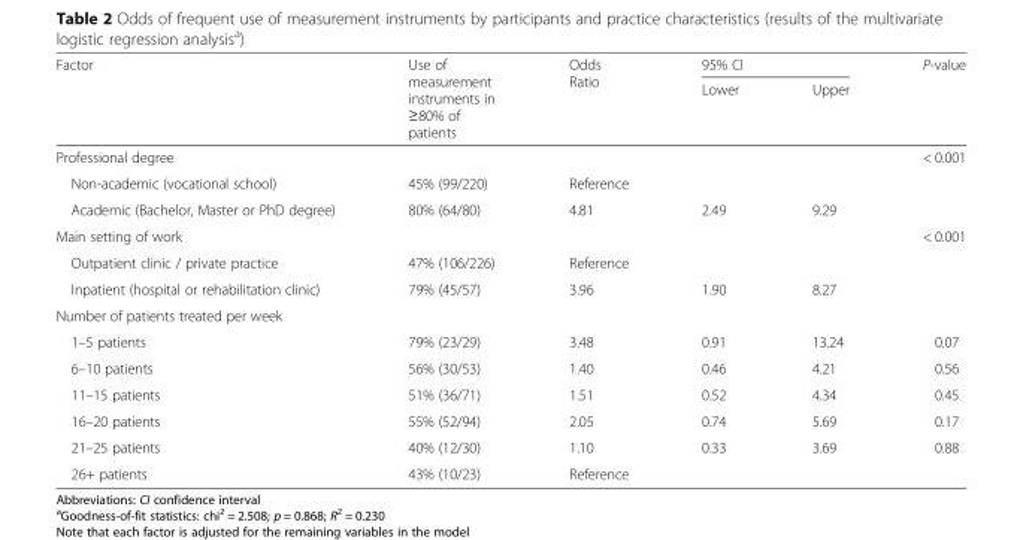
<table><thead><tr><td rowspan="2">Factor</td><td rowspan="2">Use of measurement instruments in ≥80% of patients</td><td rowspan="2">Odds Ratio</td><td colspan="2">95% CI</td><td rowspan="2">P-value</td></tr><tr><td>Lower</td><td>Upper</td></tr></thead><tbody><tr><td colspan="5">Professional degree</td><td>&lt; 0.001</td></tr><tr><td>Non-academic (vocational school)</td><td>45% (99/220)</td><td>Reference</td><td></td><td></td><td></td></tr><tr><td>Academic (Bachelor, Master or PhD degree)</td><td>80% (64/80)</td><td>4.81</td><td>2.49</td><td>9.29</td><td></td></tr><tr><td colspan="5">Main setting of work</td><td>&lt; 0.001</td></tr><tr><td>Outpatient clinic / private practice</td><td>47% (106/226)</td><td>Reference</td><td></td><td></td><td></td></tr><tr><td>Inpatient (hospital or rehabilitation clinic)</td><td>79% (45/57)</td><td>3.96</td><td>1.90</td><td>8.27</td><td></td></tr><tr><td colspan="6">Number of patients treated per week</td></tr><tr><td>1–5 patients</td><td>79% (23/29)</td><td>3.48</td><td>0.91</td><td>13.24</td><td>0.07</td></tr><tr><td>6–10 patients</td><td>56% (30/53)</td><td>1.40</td><td>0.46</td><td>4.21</td><td>0.56</td></tr><tr><td>11–15 patients</td><td>51% (36/71)</td><td>1.51</td><td>0.52</td><td>4.34</td><td>0.45</td></tr><tr><td>16–20 patients</td><td>55% (52/94)</td><td>2.05</td><td>0.74</td><td>5.69</td><td>0.17</td></tr><tr><td>21–25 patients</td><td>40% (12/30)</td><td>1.10</td><td>0.33</td><td>3.69</td><td>0.88</td></tr><tr><td>26+ patients</td><td>43% (10/23)</td><td>Reference</td><td></td><td></td><td></td></tr></tbody></table>